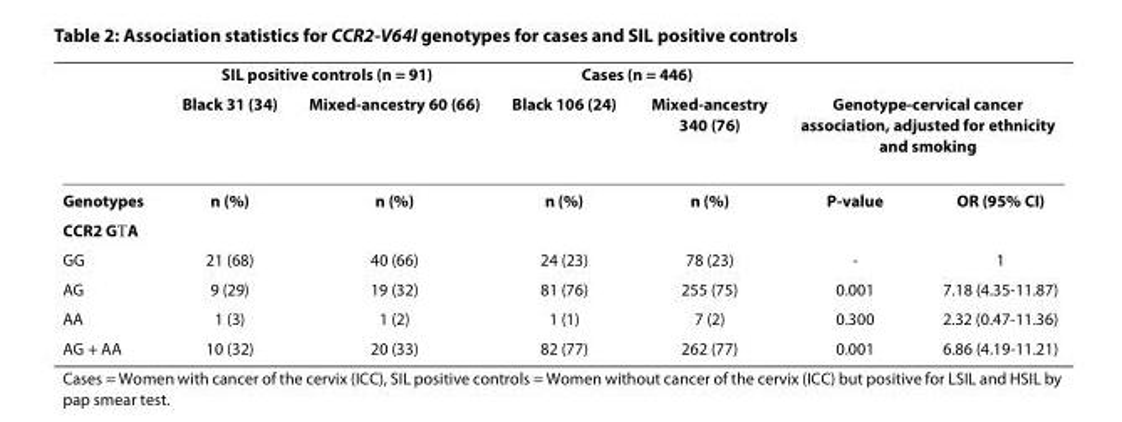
<table><thead><tr><td rowspan="2"></td><td colspan="2">SIL positive controls (n = 91)</td><td colspan="2">Cases (n = 446)</td><td></td><td></td></tr><tr><td>Black 31 (34)</td><td>Mixed-ancestry 60 (66)</td><td>Black 106 (24)</td><td>Mixed-ancestry 340 (76)</td><td colspan="2">Genotype-cervical cancer association, adjusted for ethnicity and smoking</td></tr></thead><tbody><tr><td>Genotypes</td><td>n (%)</td><td>n (%)</td><td>n (%)</td><td>n (%)</td><td>P-value</td><td>OR (95% CI)</td></tr><tr><td colspan="7">CCR2 G→A</td></tr><tr><td>GG</td><td>21 (68)</td><td>40 (66)</td><td>24 (23)</td><td>78 (23)</td><td>-</td><td>1</td></tr><tr><td>AG</td><td>9 (29)</td><td>19 (32)</td><td>81 (76)</td><td>255 (75)</td><td>0.001</td><td>7.18 (4.35-11.87)</td></tr><tr><td>AA</td><td>1 (3)</td><td>1 (2)</td><td>1 (1)</td><td>7 (2)</td><td>0.300</td><td>2.32 (0.47-11.36)</td></tr><tr><td>AG + AA</td><td>10 (32)</td><td>20 (33)</td><td>82 (77)</td><td>262 (77)</td><td>0.001</td><td>6.86 (4.19-11.21)</td></tr></tbody></table>